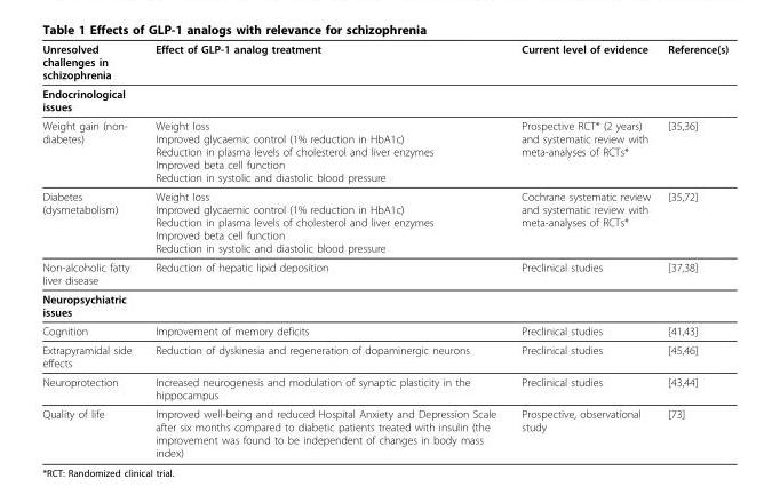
<table><thead><tr><td>Unresolved challenges in schizophrenia</td><td>Effect of GLP-1 analog treatment</td><td>Current level of evidence</td><td>Reference(s)</td></tr></thead><tbody><tr><td colspan="4">Endocrinological issues</td></tr><tr><td>Weight gain (non- diabetes)</td><td>Weight loss Improved glycaemic control (1% reduction in HbA1c) Reduction in plasma levels of cholesterol and liver enzymes Improved beta cell function Reduction in systolic and diastolic blood pressure</td><td>Prospective RCT* (2 years) and systematic review with meta-analyses of RCTs*</td><td>[35,36]</td></tr><tr><td>Diabetes (dysmetabolism)</td><td>Weight loss Improved glycaemic control (1% reduction in HbA1c) Reduction in plasma levels of cholesterol and liver enzymes Improved beta cell function Reduction in systolic and diastolic blood pressure</td><td>Cochrane systematic review and systematic review with meta-analyses of RCTs*</td><td>[35,72]</td></tr><tr><td>Non-alcoholic fatty liver disease</td><td>Reduction of hepatic lipid deposition</td><td>Preclinical studies</td><td>[37,38]</td></tr><tr><td colspan="4">Neuropsychiatric issues</td></tr><tr><td>Cognition</td><td>Improvement of memory deficits</td><td>Preclinical studies</td><td>[41,43]</td></tr><tr><td>Extrapyramidal side effects</td><td>Reduction of dyskinesia and regeneration of dopaminergic neurons</td><td>Preclinical studies</td><td>[45,46]</td></tr><tr><td>Neuroprotection</td><td>Increased neurogenesis and modulation of synaptic plasticity in the hippocampus</td><td>Preclinical studies</td><td>[43,44]</td></tr><tr><td>Quality of life</td><td>Improved well-being and reduced Hospital Anxiety and Depression Scale after six months compared to diabetic patients treated with insulin (the improvement was found to be independent of changes in body mass index)</td><td>Prospective, observational study</td><td>[73]</td></tr></tbody></table>